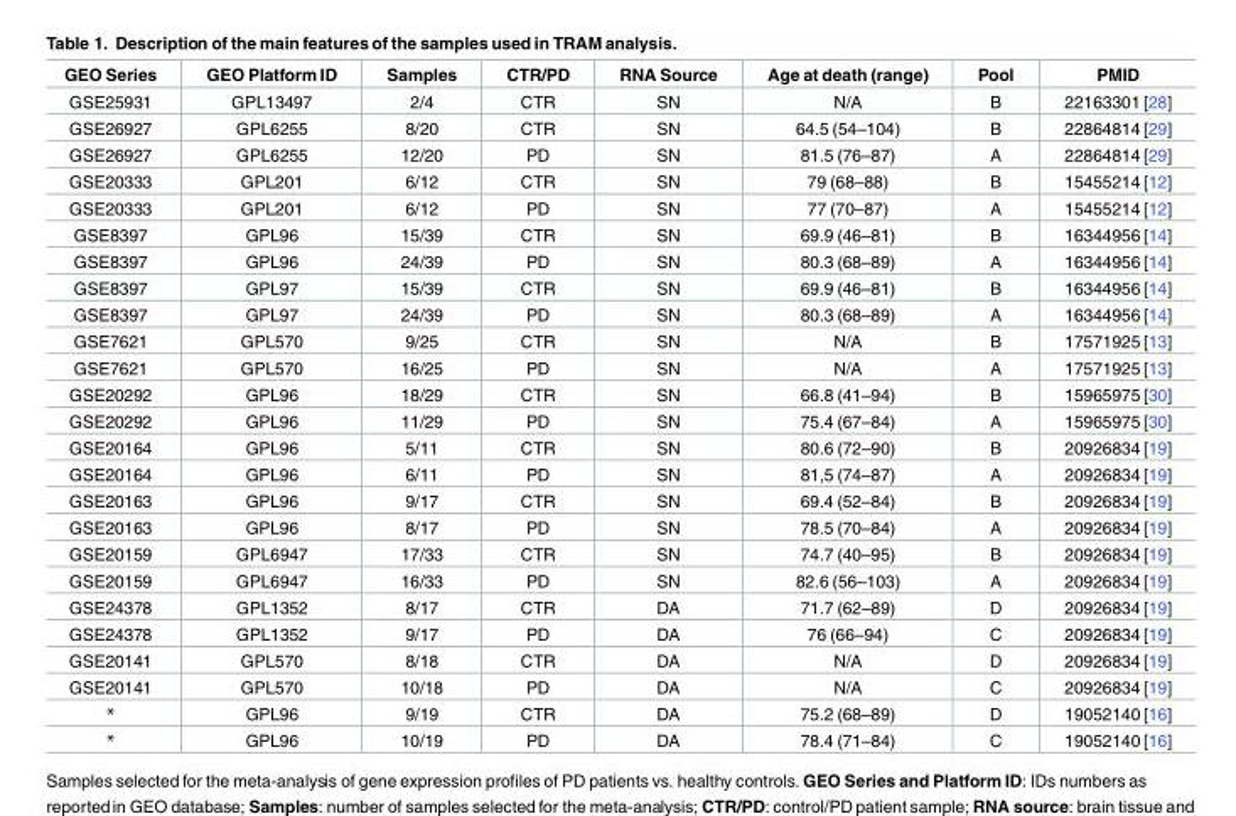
<table><thead><tr><td>GEO Series</td><td>GEO Platform ID</td><td>Samples</td><td>CTR/PD</td><td>RNA Source</td><td>Age at death (range)</td><td>Pool</td><td>PMID</td></tr></thead><tbody><tr><td>GSE25931</td><td>GPL13497</td><td>2/4</td><td>CTR</td><td>SN</td><td>N/A</td><td>B</td><td>22163301 [28]</td></tr><tr><td>GSE26927</td><td>GPL6255</td><td>8/20</td><td>CTR</td><td>SN</td><td>64.5 (54–104)</td><td>B</td><td>22864814 [29]</td></tr><tr><td>GSE26927</td><td>GPL6255</td><td>12/20</td><td>PD</td><td>SN</td><td>81.5 (76–87)</td><td>A</td><td>22864814 [29]</td></tr><tr><td>GSE20333</td><td>GPL201</td><td>6/12</td><td>CTR</td><td>SN</td><td>79 (68–88)</td><td>B</td><td>15455214 [12]</td></tr><tr><td>GSE20333</td><td>GPL201</td><td>6/12</td><td>PD</td><td>SN</td><td>77 (70–87)</td><td>A</td><td>15455214 [12]</td></tr><tr><td>GSE8397</td><td>GPL96</td><td>15/39</td><td>CTR</td><td>SN</td><td>69.9 (46–81)</td><td>B</td><td>16344956 [14]</td></tr><tr><td>GSE8397</td><td>GPL96</td><td>24/39</td><td>PD</td><td>SN</td><td>80.3 (68–89)</td><td>A</td><td>16344956 [14]</td></tr><tr><td>GSE8397</td><td>GPL97</td><td>15/39</td><td>CTR</td><td>SN</td><td>69.9 (46–81)</td><td>B</td><td>16344956 [14]</td></tr><tr><td>GSE8397</td><td>GPL97</td><td>24/39</td><td>PD</td><td>SN</td><td>80.3 (68–89)</td><td>A</td><td>16344956 [14]</td></tr><tr><td>GSE7621</td><td>GPL570</td><td>9/25</td><td>CTR</td><td>SN</td><td>N/A</td><td>B</td><td>17571925 [13]</td></tr><tr><td>GSE7621</td><td>GPL570</td><td>16/25</td><td>PD</td><td>SN</td><td>N/A</td><td>A</td><td>17571925 [13]</td></tr><tr><td>GSE20292</td><td>GPL96</td><td>18/29</td><td>CTR</td><td>SN</td><td>66.8 (41–94)</td><td>B</td><td>15965975 [30]</td></tr><tr><td>GSE20292</td><td>GPL96</td><td>11/29</td><td>PD</td><td>SN</td><td>75.4 (67–84)</td><td>A</td><td>15965975 [30]</td></tr><tr><td>GSE20164</td><td>GPL96</td><td>5/11</td><td>CTR</td><td>SN</td><td>80.6 (72–90)</td><td>B</td><td>20926834 [19]</td></tr><tr><td>GSE20164</td><td>GPL96</td><td>6/11</td><td>PD</td><td>SN</td><td>81,5 (74–87)</td><td>A</td><td>20926834 [19]</td></tr><tr><td>GSE20163</td><td>GPL96</td><td>9/17</td><td>CTR</td><td>SN</td><td>69.4 (52–84)</td><td>B</td><td>20926834 [19]</td></tr><tr><td>GSE20163</td><td>GPL96</td><td>8/17</td><td>PD</td><td>SN</td><td>78.5 (70–84)</td><td>A</td><td>20926834 [19]</td></tr><tr><td>GSE20159</td><td>GPL6947</td><td>17/33</td><td>CTR</td><td>SN</td><td>74.7 (40–95)</td><td>B</td><td>20926834 [19]</td></tr><tr><td>GSE20159</td><td>GPL6947</td><td>16/33</td><td>PD</td><td>SN</td><td>82.6 (56–103)</td><td>A</td><td>20926834 [19]</td></tr><tr><td>GSE24378</td><td>GPL1352</td><td>8/17</td><td>CTR</td><td>DA</td><td>71.7 (62–89)</td><td>D</td><td>20926834 [19]</td></tr><tr><td>GSE24378</td><td>GPL1352</td><td>9/17</td><td>PD</td><td>DA</td><td>76 (66–94)</td><td>C</td><td>20926834 [19]</td></tr><tr><td>GSE20141</td><td>GPL570</td><td>8/18</td><td>CTR</td><td>DA</td><td>N/A</td><td>D</td><td>20926834 [19]</td></tr><tr><td>GSE20141</td><td>GPL570</td><td>10/18</td><td>PD</td><td>DA</td><td>N/A</td><td>C</td><td>20926834 [19]</td></tr><tr><td>*</td><td>GPL96</td><td>9/19</td><td>CTR</td><td>DA</td><td>75.2 (68–89)</td><td>D</td><td>19052140 [16]</td></tr><tr><td>*</td><td>GPL96</td><td>10/19</td><td>PD</td><td>DA</td><td>78.4 (71–84)</td><td>C</td><td>19052140 [16]</td></tr></tbody></table>